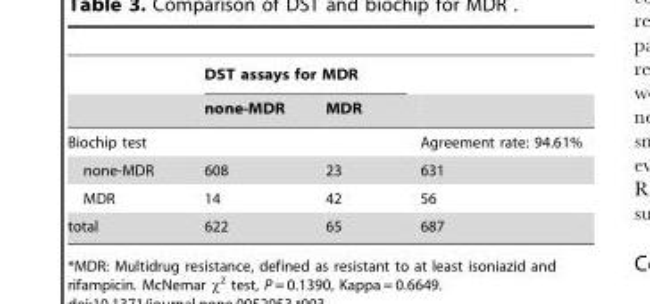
<table><thead><tr><td rowspan="2"></td><td colspan="2">DST assays for MDR</td><td rowspan="2"></td></tr><tr><td>none-MDR</td><td>MDR</td></tr></thead><tbody><tr><td>Biochip test</td><td></td><td></td><td>Agreement rate: 94.61%</td></tr><tr><td>none-MDR</td><td>608</td><td>23</td><td>631</td></tr><tr><td>MDR</td><td>14</td><td>42</td><td>56</td></tr><tr><td>total</td><td>622</td><td>65</td><td>687</td></tr></tbody></table>